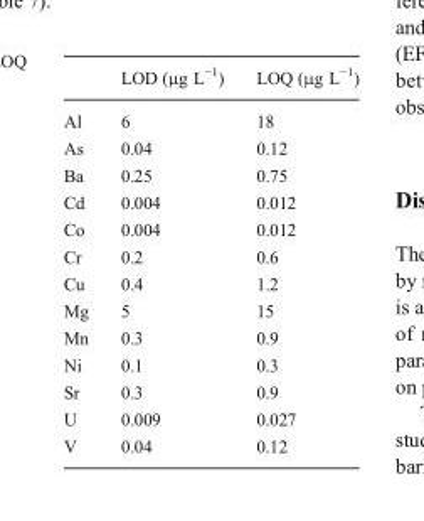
<table><thead><tr><td></td><td>LOD (μg L<sup>−1</sup>)</td><td>LOQ (μg L<sup>−1</sup>)</td></tr></thead><tbody><tr><td>Al</td><td>6</td><td>18</td></tr><tr><td>As</td><td>0.04</td><td>0.12</td></tr><tr><td>Ba</td><td>0.25</td><td>0.75</td></tr><tr><td>Cd</td><td>0.004</td><td>0.012</td></tr><tr><td>Co</td><td>0.004</td><td>0.012</td></tr><tr><td>Cr</td><td>0.2</td><td>0.6</td></tr><tr><td>Cu</td><td>0.4</td><td>1.2</td></tr><tr><td>Mg</td><td>5</td><td>15</td></tr><tr><td>Mn</td><td>0.3</td><td>0.9</td></tr><tr><td>Ni</td><td>0.1</td><td>0.3</td></tr><tr><td>Sr</td><td>0.3</td><td>0.9</td></tr><tr><td>U</td><td>0.009</td><td>0.027</td></tr><tr><td>V</td><td>0.04</td><td>0.12</td></tr></tbody></table>